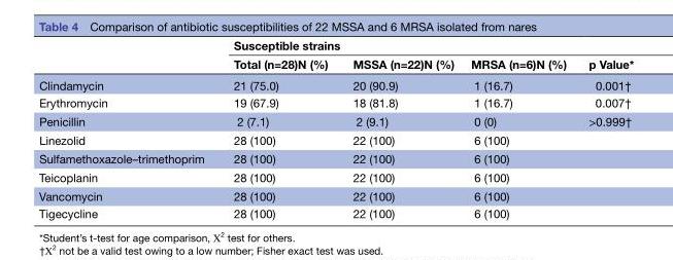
<table><thead><tr><td rowspan="2"></td><td colspan="4">Susceptible strains</td></tr><tr><td>Total (n=28)N (%)</td><td>MSSA (n=22)N (%)</td><td>MRSA (n=6)N (%)</td><td>p Value*</td></tr></thead><tbody><tr><td>Clindamycin</td><td>21 (75.0)</td><td>20 (90.9)</td><td>1 (16.7)</td><td>0.001†</td></tr><tr><td>Erythromycin</td><td>19 (67.9)</td><td>18 (81.8)</td><td>1 (16.7)</td><td>0.007†</td></tr><tr><td>Penicillin</td><td>2 (7.1)</td><td>2 (9.1)</td><td>0 (0)</td><td>&gt;0.999†</td></tr><tr><td>Linezolid</td><td>28 (100)</td><td>22 (100)</td><td>6 (100)</td><td></td></tr><tr><td>Sulfamethoxazole–trimethoprim</td><td>28 (100)</td><td>22 (100)</td><td>6 (100)</td><td></td></tr><tr><td>Teicoplanin</td><td>28 (100)</td><td>22 (100)</td><td>6 (100)</td><td></td></tr><tr><td>Vancomycin</td><td>28 (100)</td><td>22 (100)</td><td>6 (100)</td><td></td></tr><tr><td>Tigecycline</td><td>28 (100)</td><td>22 (100)</td><td>6 (100)</td><td></td></tr></tbody></table>